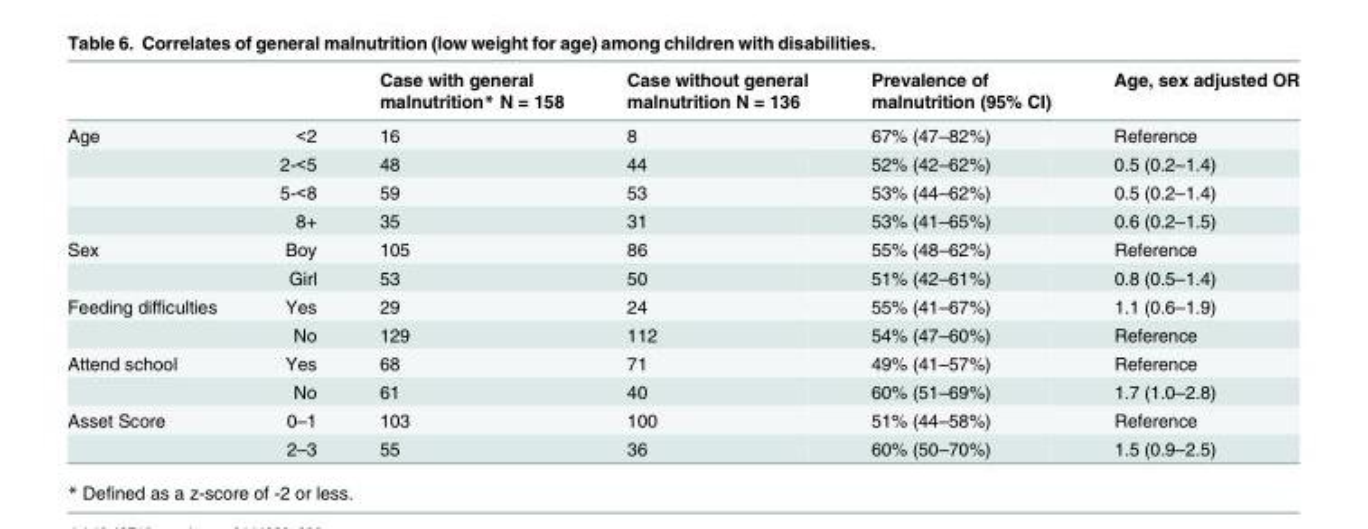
<table><thead><tr><td></td><td></td><td>Case with general malnutrition* N = 158</td><td>Case without general malnutrition N = 136</td><td>Prevalence of malnutrition (95% CI)</td><td>Age, sex adjusted OR</td></tr></thead><tbody><tr><td rowspan="4">Age</td><td>&lt;2</td><td>16</td><td>8</td><td>67% (47–82%)</td><td>Reference</td></tr><tr><td>2-&lt;5</td><td>48</td><td>44</td><td>52% (42–62%)</td><td>0.5 (0.2–1.4)</td></tr><tr><td>5-&lt;8</td><td>59</td><td>53</td><td>53% (44–62%)</td><td>0.5 (0.2–1.4)</td></tr><tr><td>8+</td><td>35</td><td>31</td><td>53% (41–65%)</td><td>0.6 (0.2–1.5)</td></tr><tr><td rowspan="2">Sex</td><td>Boy</td><td>105</td><td>86</td><td>55% (48–62%)</td><td>Reference</td></tr><tr><td>Girl</td><td>53</td><td>50</td><td>51% (42–61%)</td><td>0.8 (0.5–1.4)</td></tr><tr><td rowspan="2">Feeding difficulties</td><td>Yes</td><td>29</td><td>24</td><td>55% (41–67%)</td><td>1.1 (0.6–1.9)</td></tr><tr><td>No</td><td>129</td><td>112</td><td>54% (47–60%)</td><td>Reference</td></tr><tr><td rowspan="2">Attend school</td><td>Yes</td><td>68</td><td>71</td><td>49% (41–57%)</td><td>Reference</td></tr><tr><td>No</td><td>61</td><td>40</td><td>60% (51–69%)</td><td>1.7 (1.0–2.8)</td></tr><tr><td rowspan="2">Asset Score</td><td>0–1</td><td>103</td><td>100</td><td>51% (44–58%)</td><td>Reference</td></tr><tr><td>2–3</td><td>55</td><td>36</td><td>60% (50–70%)</td><td>1.5 (0.9–2.5)</td></tr></tbody></table>